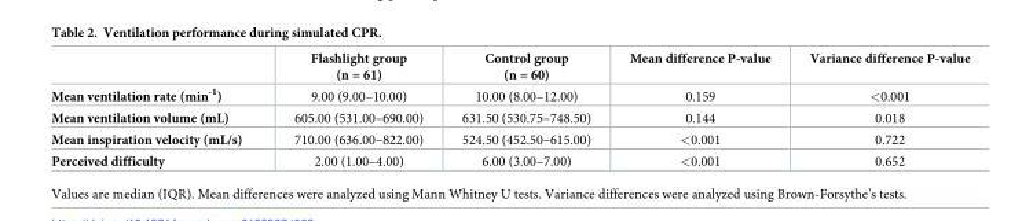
<table><thead><tr><td></td><td>Flashlight group (n = 61)</td><td>Control group (n = 60)</td><td>Mean difference P-value</td><td>Variance difference P-value</td></tr></thead><tbody><tr><td>Mean ventilation rate (min<sup>-1</sup>)</td><td>9.00 (9.00–10.00)</td><td>10.00 (8.00–12.00)</td><td>0.159</td><td>&lt;0.001</td></tr><tr><td>Mean ventilation volume (mL)</td><td>605.00 (531.00–690.00)</td><td>631.50 (530.75–748.50)</td><td>0.144</td><td>0.018</td></tr><tr><td>Mean inspiration velocity (mL/s)</td><td>710.00 (636.00–822.00)</td><td>524.50 (452.50–615.00)</td><td>&lt;0.001</td><td>0.722</td></tr><tr><td>Perceived difficulty</td><td>2.00 (1.00–4.00)</td><td>6.00 (3.00–7.00)</td><td>&lt;0.001</td><td>0.652</td></tr></tbody></table>